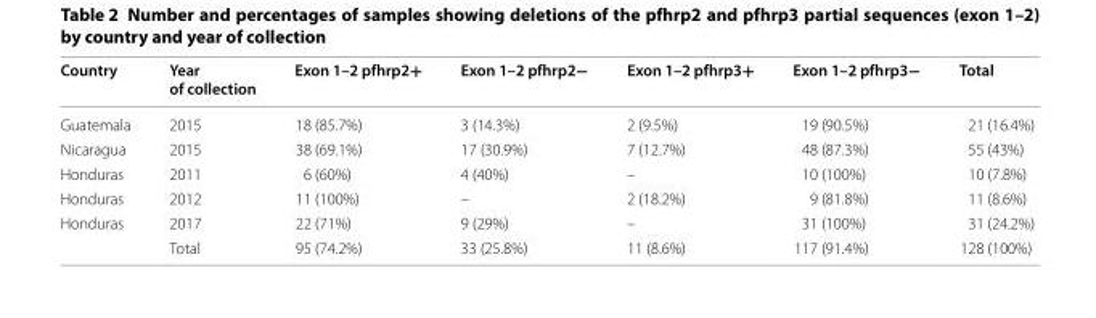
<table><thead><tr><td>Country</td><td>Year of collection</td><td>Exon 1–2 pfhrp2+</td><td>Exon 1–2 pfhrp2−</td><td>Exon 1–2 pfhrp3+</td><td>Exon 1–2 pfhrp3−</td><td>Total</td></tr></thead><tbody><tr><td>Guatemala</td><td>2015</td><td>18 (85.7%)</td><td>3 (14.3%)</td><td>2 (9.5%)</td><td>19 (90.5%)</td><td>21 (16.4%)</td></tr><tr><td>Nicaragua</td><td>2015</td><td>38 (69.1%)</td><td>17 (30.9%)</td><td>7 (12.7%)</td><td>48 (87.3%)</td><td>55 (43%)</td></tr><tr><td>Honduras</td><td>2011</td><td>6 (60%)</td><td>4 (40%)</td><td>–</td><td>10 (100%)</td><td>10 (7.8%)</td></tr><tr><td>Honduras</td><td>2012</td><td>11 (100%)</td><td>–</td><td>2 (18.2%)</td><td>9 (81.8%)</td><td>11 (8.6%)</td></tr><tr><td rowspan="2">Honduras</td><td>2017</td><td>22 (71%)</td><td>9 (29%)</td><td>–</td><td>31 (100%)</td><td>31 (24.2%)</td></tr><tr><td>Total</td><td>95 (74.2%)</td><td>33 (25.8%)</td><td>11 (8.6%)</td><td>117 (91.4%)</td><td>128 (100%)</td></tr></tbody></table>